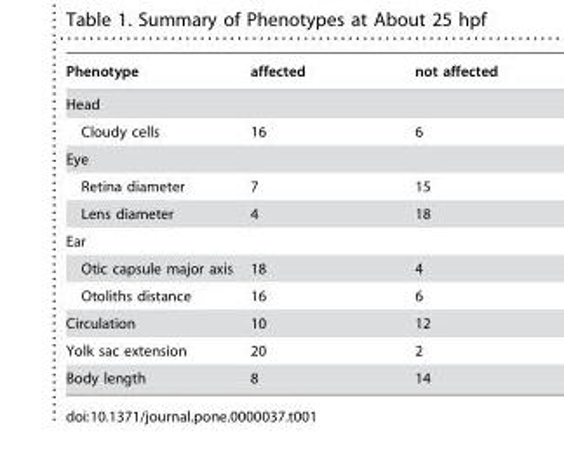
<table><thead><tr><td>Phenotype</td><td>affected</td><td>not affected</td></tr></thead><tbody><tr><td colspan="3">Head</td></tr><tr><td>Cloudy cells</td><td>16</td><td>6</td></tr><tr><td colspan="3">Eye</td></tr><tr><td>Retina diameter</td><td>7</td><td>15</td></tr><tr><td>Lens diameter</td><td>4</td><td>18</td></tr><tr><td colspan="3">Ear</td></tr><tr><td>Otic capsule major axis</td><td>18</td><td>4</td></tr><tr><td>Otoliths distance</td><td>16</td><td>6</td></tr><tr><td>Circulation</td><td>10</td><td>12</td></tr><tr><td>Yolk sac extension</td><td>20</td><td>2</td></tr><tr><td>Body length</td><td>8</td><td>14</td></tr></tbody></table>